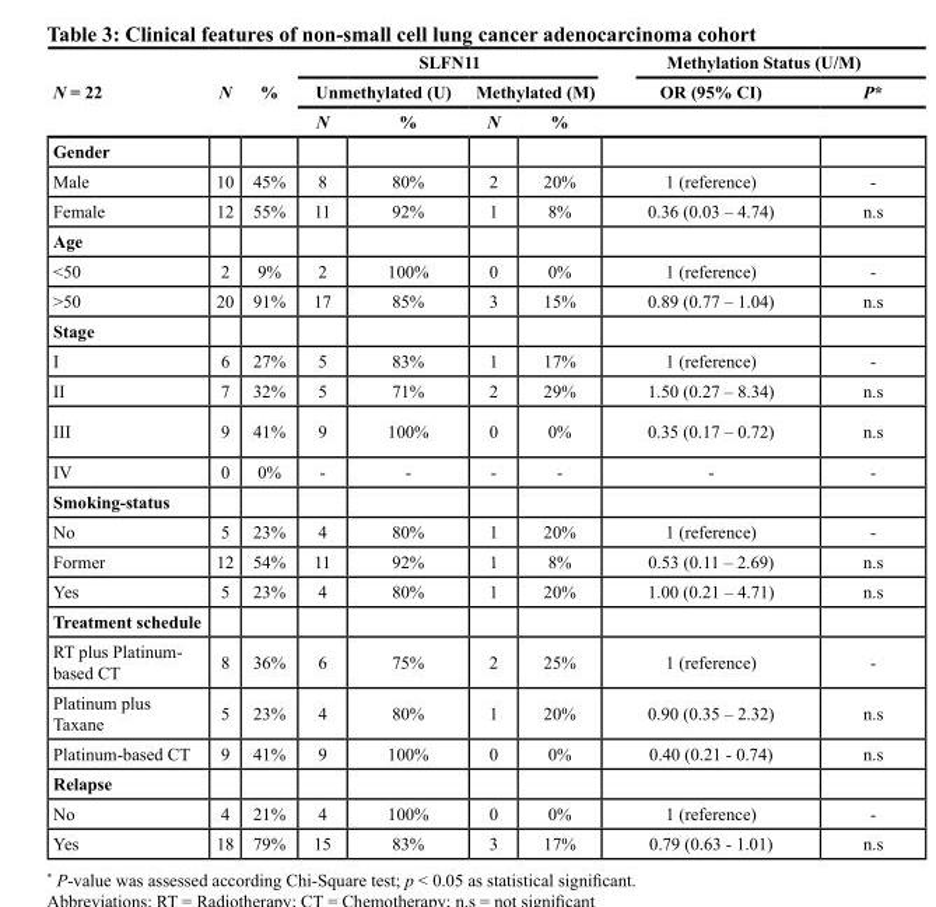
<table><thead><tr><td rowspan="3">N = 22</td><td rowspan="3">N</td><td rowspan="3">%</td><td colspan="4">SLFN11</td><td colspan="2">Methylation Status (U/M)</td></tr><tr><td colspan="2">Unmethylated (U)</td><td colspan="2">Methylated (M)</td><td rowspan="2">OR (95% CI)</td><td rowspan="2">P*</td></tr><tr><td>N</td><td>%</td><td>N</td><td>%</td></tr></thead><tbody><tr><td colspan="9">Gender</td></tr><tr><td>Male</td><td>10</td><td>45%</td><td>8</td><td>80%</td><td>2</td><td>20%</td><td>1 (reference)</td><td>-</td></tr><tr><td>Female</td><td>12</td><td>55%</td><td>11</td><td>92%</td><td>1</td><td>8%</td><td>0.36 (0.03 – 4.74)</td><td>n.s</td></tr><tr><td colspan="9">Age</td></tr><tr><td>&lt;50</td><td>2</td><td>9%</td><td>2</td><td>100%</td><td>0</td><td>0%</td><td>1 (reference)</td><td>-</td></tr><tr><td>&gt;50</td><td>20</td><td>91%</td><td>17</td><td>85%</td><td>3</td><td>15%</td><td>0.89 (0.77 – 1.04)</td><td>n.s</td></tr><tr><td colspan="9">Stage</td></tr><tr><td>I</td><td>6</td><td>27%</td><td>5</td><td>83%</td><td>1</td><td>17%</td><td>1 (reference)</td><td>-</td></tr><tr><td>II</td><td>7</td><td>32%</td><td>5</td><td>71%</td><td>2</td><td>29%</td><td>1.50 (0.27 – 8.34)</td><td>n.s</td></tr><tr><td>III</td><td>9</td><td>41%</td><td>9</td><td>100%</td><td>0</td><td>0%</td><td>0.35 (0.17 – 0.72)</td><td>n.s</td></tr><tr><td>IV</td><td>0</td><td>0%</td><td>-</td><td>-</td><td>-</td><td>-</td><td>-</td><td>-</td></tr><tr><td colspan="9">Smoking-status</td></tr><tr><td>No</td><td>5</td><td>23%</td><td>4</td><td>80%</td><td>1</td><td>20%</td><td>1 (reference)</td><td>-</td></tr><tr><td>Former</td><td>12</td><td>54%</td><td>11</td><td>92%</td><td>1</td><td>8%</td><td>0.53 (0.11 – 2.69)</td><td>n.s</td></tr><tr><td>Yes</td><td>5</td><td>23%</td><td>4</td><td>80%</td><td>1</td><td>20%</td><td>1.00 (0.21 – 4.71)</td><td>n.s</td></tr><tr><td colspan="9">Treatment schedule</td></tr><tr><td>RT plus Platinum- based CT</td><td>8</td><td>36%</td><td>6</td><td>75%</td><td>2</td><td>25%</td><td>1 (reference)</td><td>-</td></tr><tr><td>Platinum plus Taxane</td><td>5</td><td>23%</td><td>4</td><td>80%</td><td>1</td><td>20%</td><td>0.90 (0.35 – 2.32)</td><td>n.s</td></tr><tr><td>Platinum-based CT</td><td>9</td><td>41%</td><td>9</td><td>100%</td><td>0</td><td>0%</td><td>0.40 (0.21 - 0.74)</td><td>n.s</td></tr><tr><td colspan="9">Relapse</td></tr><tr><td>No</td><td>4</td><td>21%</td><td>4</td><td>100%</td><td>0</td><td>0%</td><td>1 (reference)</td><td>-</td></tr><tr><td>Yes</td><td>18</td><td>79%</td><td>15</td><td>83%</td><td>3</td><td>17%</td><td>0.79 (0.63 - 1.01)</td><td>n.s</td></tr></tbody></table>